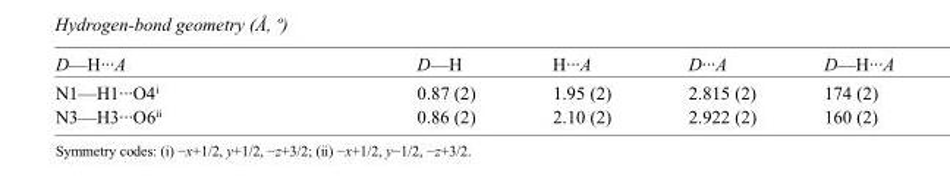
<table><tbody><tr><td>D—H···A</td><td>D—H</td><td>H···A</td><td>D···A</td><td>D—H···A</td></tr><tr><td>N1—H1···O4<sup>i</sup></td><td>0.87 (2)</td><td>1.95 (2)</td><td>2.815 (2)</td><td>174 (2)</td></tr><tr><td>N3—H3···O6<sup>ii</sup></td><td>0.86 (2)</td><td>2.10 (2)</td><td>2.922 (2)</td><td>160 (2)</td></tr></tbody></table>